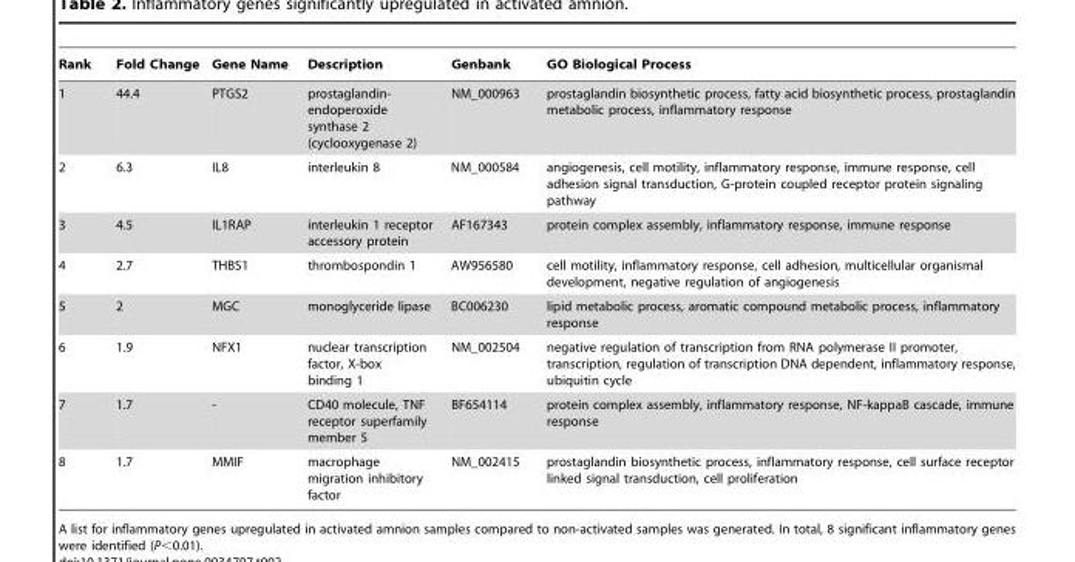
<table><thead><tr><td>Rank</td><td>Fold Change</td><td>Gene Name</td><td>Description</td><td>Genbank</td><td>GO Biological Process</td></tr></thead><tbody><tr><td>1</td><td>44.4</td><td>PTGS2</td><td>prostaglandin- endoperoxide synthase 2 (cyclooxygenase 2)</td><td>NM_000963</td><td>prostaglandin biosynthetic process, fatty acid biosynthetic process, prostaglandin metabolic process, inflammatory response</td></tr><tr><td>2</td><td>6.3</td><td>IL8</td><td>interleukin 8</td><td>NM_000584</td><td>angiogenesis, cell motility, inflammatory response, immune response, cell adhesion signal transduction, G-protein coupled receptor protein signaling pathway</td></tr><tr><td>3</td><td>4.5</td><td>IL1RAP</td><td>interleukin 1 receptor accessory protein</td><td>AF167343</td><td>protein complex assembly, inflammatory response, immune response</td></tr><tr><td>4</td><td>2.7</td><td>THBS1</td><td>thrombospondin 1</td><td>AW956580</td><td>cell motility, inflammatory response, cell adhesion, multicellular organismal development, negative regulation of angiogenesis</td></tr><tr><td>5</td><td>2</td><td>MGC</td><td>monoglyceride lipase</td><td>BC006230</td><td>lipid metabolic process, aromatic compound metabolic process, inflammatory response</td></tr><tr><td>6</td><td>1.9</td><td>NFX1</td><td>nuclear transcription factor, X-box binding 1</td><td>NM_002504</td><td>negative regulation of transcription from RNA polymerase II promoter, transcription, regulation of transcription DNA dependent, inflammatory response, ubiquitin cycle</td></tr><tr><td>7</td><td>1.7</td><td>-</td><td>CD40 molecule, TNF receptor superfamily member 5</td><td>BF654114</td><td>protein complex assembly, inflammatory response, NF-kappaB cascade, immune response</td></tr><tr><td>8</td><td>1.7</td><td>MMIF</td><td>macrophage migration inhibitory factor</td><td>NM_002415</td><td>prostaglandin biosynthetic process, inflammatory response, cell surface receptor linked signal transduction, cell proliferation</td></tr></tbody></table>